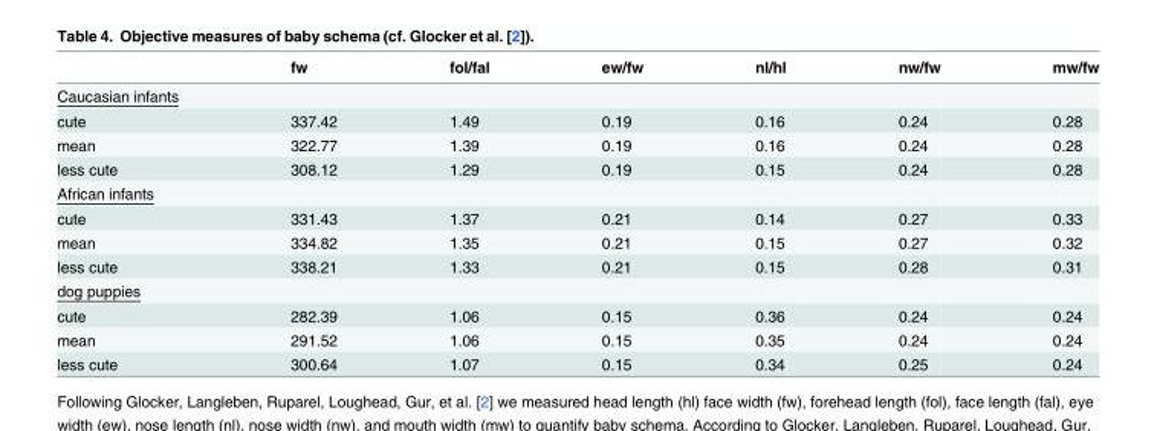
<table><thead><tr><td></td><td>fw</td><td>fol/fal</td><td>ew/fw</td><td>nl/hl</td><td>nw/fw</td><td>mw/fw</td></tr></thead><tbody><tr><td colspan="7">Caucasian infants</td></tr><tr><td>cute</td><td>337.42</td><td>1.49</td><td>0.19</td><td>0.16</td><td>0.24</td><td>0.28</td></tr><tr><td>mean</td><td>322.77</td><td>1.39</td><td>0.19</td><td>0.16</td><td>0.24</td><td>0.28</td></tr><tr><td>less cute</td><td>308.12</td><td>1.29</td><td>0.19</td><td>0.15</td><td>0.24</td><td>0.28</td></tr><tr><td colspan="7">African infants</td></tr><tr><td>cute</td><td>331.43</td><td>1.37</td><td>0.21</td><td>0.14</td><td>0.27</td><td>0.33</td></tr><tr><td>mean</td><td>334.82</td><td>1.35</td><td>0.21</td><td>0.15</td><td>0.27</td><td>0.32</td></tr><tr><td>less cute</td><td>338.21</td><td>1.33</td><td>0.21</td><td>0.15</td><td>0.28</td><td>0.31</td></tr><tr><td colspan="7">dog puppies</td></tr><tr><td>cute</td><td>282.39</td><td>1.06</td><td>0.15</td><td>0.36</td><td>0.24</td><td>0.24</td></tr><tr><td>mean</td><td>291.52</td><td>1.06</td><td>0.15</td><td>0.35</td><td>0.24</td><td>0.24</td></tr><tr><td>less cute</td><td>300.64</td><td>1.07</td><td>0.15</td><td>0.34</td><td>0.25</td><td>0.24</td></tr></tbody></table>